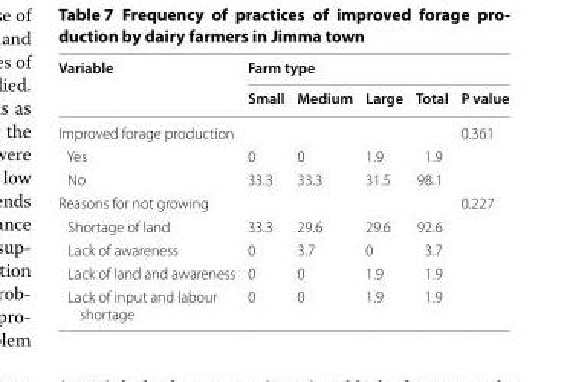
<table><thead><tr><td rowspan="2">Variable</td><td colspan="5">Farm type</td></tr><tr><td>Small</td><td>Medium</td><td>Large</td><td>Total</td><td>P value</td></tr></thead><tbody><tr><td>Improved forage production</td><td></td><td></td><td></td><td></td><td>0.361</td></tr><tr><td>Yes</td><td>0</td><td>0</td><td>1.9</td><td>1.9</td><td></td></tr><tr><td>No</td><td>33.3</td><td>33.3</td><td>31.5</td><td>98.1</td><td></td></tr><tr><td>Reasons for not growing</td><td></td><td></td><td></td><td></td><td>0.227</td></tr><tr><td>Shortage of land</td><td>33.3</td><td>29.6</td><td>29.6</td><td>92.6</td><td></td></tr><tr><td>Lack of awareness</td><td>0</td><td>3.7</td><td>0</td><td>3.7</td><td></td></tr><tr><td>Lack of land and awareness</td><td>0</td><td>0</td><td>1.9</td><td>1.9</td><td></td></tr><tr><td>Lack of input and labour shortage</td><td>0</td><td>0</td><td>1.9</td><td>1.9</td><td></td></tr></tbody></table>